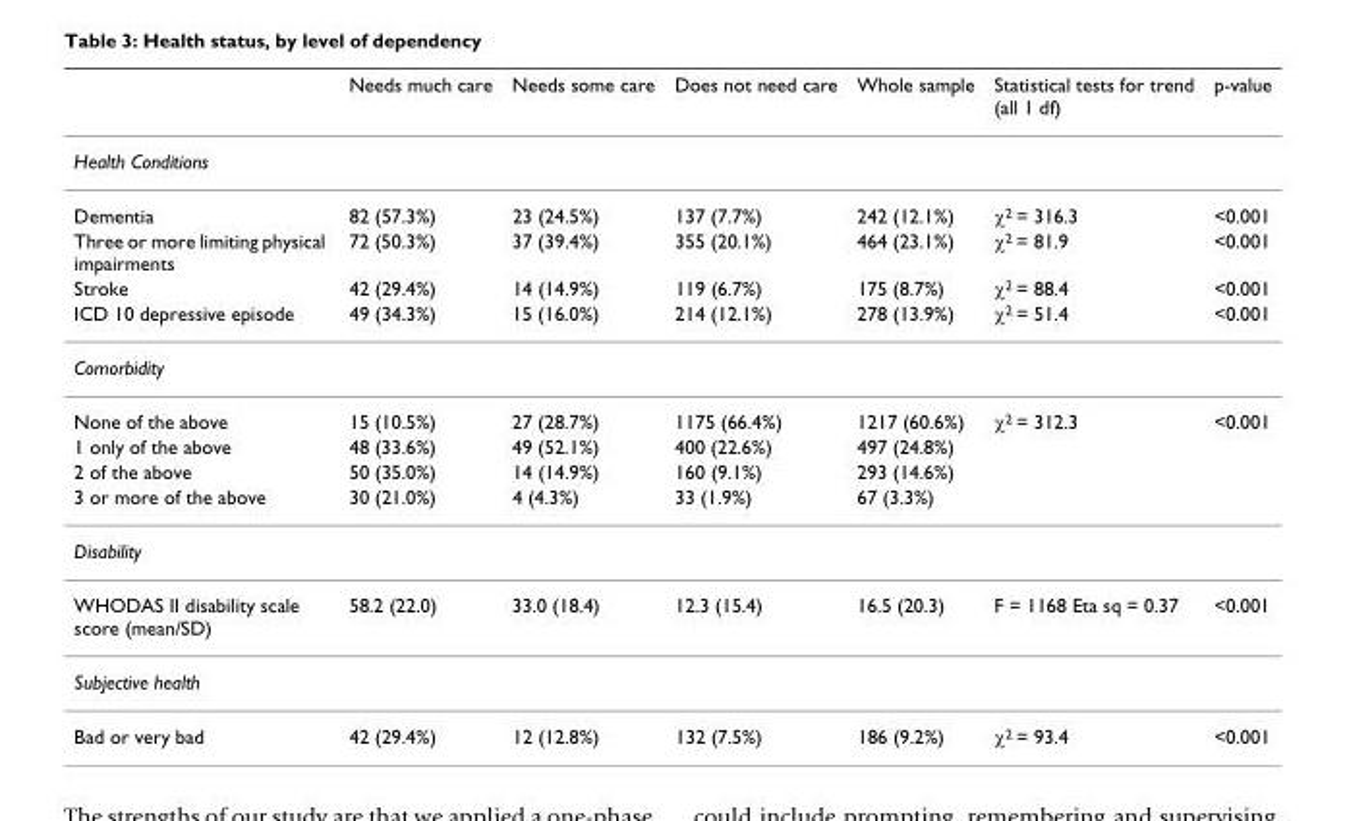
<table><thead><tr><td></td><td>Needs much care</td><td>Needs some care</td><td>Does not need care</td><td>Whole sample</td><td>Statistical tests for trend (all 1 df)</td><td>p-value</td></tr></thead><tbody><tr><td colspan="7">Health Conditions</td></tr><tr><td>Dementia</td><td>82 (57.3%)</td><td>23 (24.5%)</td><td>137 (7.7%)</td><td>242 (12.1%)</td><td>χ<sup>2</sup> = 316.3</td><td>&lt;0.001</td></tr><tr><td>Three or more limiting physical impairments</td><td>72 (50.3%)</td><td>37 (39.4%)</td><td>355 (20.1%)</td><td>464 (23.1%)</td><td>χ<sup>2</sup> = 81.9</td><td>&lt;0.001</td></tr><tr><td>Stroke</td><td>42 (29.4%)</td><td>14 (14.9%)</td><td>119 (6.7%)</td><td>175 (8.7%)</td><td>χ<sup>2</sup> = 88.4</td><td>&lt;0.001</td></tr><tr><td>ICD 10 depressive episode</td><td>49 (34.3%)</td><td>15 (16.0%)</td><td>214 (12.1%)</td><td>278 (13.9%)</td><td>χ<sup>2</sup> = 51.4</td><td>&lt;0.001</td></tr><tr><td colspan="7">Comorbidity</td></tr><tr><td>None of the above</td><td>15 (10.5%)</td><td>27 (28.7%)</td><td>1175 (66.4%)</td><td>1217 (60.6%)</td><td>χ<sup>2</sup> = 312.3</td><td>&lt;0.001</td></tr><tr><td>1 only of the above</td><td>48 (33.6%)</td><td>49 (52.1%)</td><td>400 (22.6%)</td><td>497 (24.8%)</td><td></td><td></td></tr><tr><td>2 of the above</td><td>50 (35.0%)</td><td>14 (14.9%)</td><td>160 (9.1%)</td><td>293 (14.6%)</td><td></td><td></td></tr><tr><td>3 or more of the above</td><td>30 (21.0%)</td><td>4 (4.3%)</td><td>33 (1.9%)</td><td>67 (3.3%)</td><td></td><td></td></tr><tr><td colspan="7">Disability</td></tr><tr><td>WHODAS II disability scale score (mean/SD)</td><td>58.2 (22.0)</td><td>33.0 (18.4)</td><td>12.3 (15.4)</td><td>16.5 (20.3)</td><td>F = 1168 Eta sq = 0.37</td><td>&lt;0.001</td></tr><tr><td colspan="7">Subjective health</td></tr><tr><td>Bad or very bad</td><td>42 (29.4%)</td><td>12 (12.8%)</td><td>132 (7.5%)</td><td>186 (9.2%)</td><td>χ<sup>2</sup> = 93.4</td><td>&lt;0.001</td></tr></tbody></table>